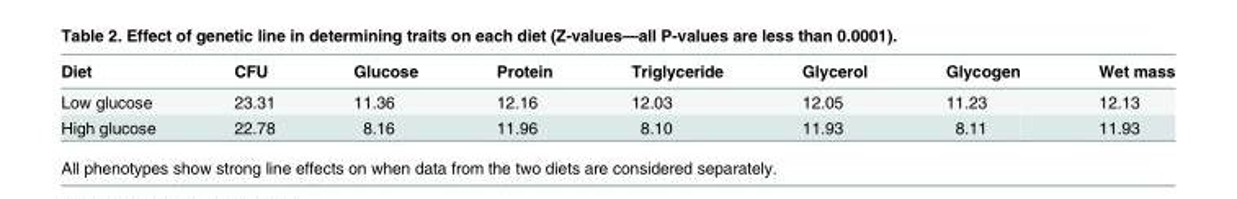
<table><thead><tr><td>Diet</td><td>CFU</td><td>Glucose</td><td>Protein</td><td>Triglyceride</td><td>Glycerol</td><td>Glycogen</td><td>Wet mass</td></tr></thead><tbody><tr><td>Low glucose</td><td>23.31</td><td>11.36</td><td>12.16</td><td>12.03</td><td>12.05</td><td>11.23</td><td>12.13</td></tr><tr><td>High glucose</td><td>22.78</td><td>8.16</td><td>11.96</td><td>8.10</td><td>11.93</td><td>8.11</td><td>11.93</td></tr></tbody></table>